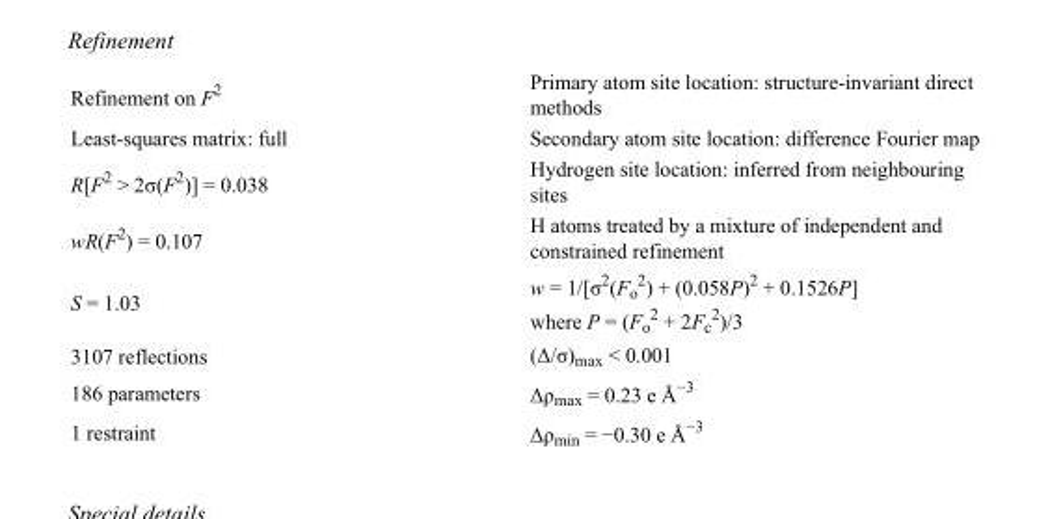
<table><tbody><tr><td>Refinement on F<sup>2</sup></td><td>Primary atom site location: structure-invariant direct methods</td></tr><tr><td>Least-squares matrix: full</td><td>Secondary atom site location: difference Fourier map</td></tr><tr><td>R[F<sup>2</sup> &gt; 2σ(F<sup>2</sup>)] = 0.038</td><td>Hydrogen site location: inferred from neighbouring sites</td></tr><tr><td>wR(F<sup>2</sup>) = 0.107</td><td>H atoms treated by a mixture of independent and constrained refinement</td></tr><tr><td>S = 1.03</td><td>w = 1/[σ<sup>2</sup>(F<sub>o</sub> <sup>2</sup>) + (0.058P)<sup>2</sup> + 0.1526P] where P = (F<sub>o</sub> <sup>2</sup> + 2F<sub>c</sub> <sup>2</sup>)/3</td></tr><tr><td>3107 reflections</td><td>(Δ/σ)<sub>max</sub> &lt; 0.001</td></tr><tr><td>186 parameters</td><td>Δρ<sub>max</sub> = 0.23 e Å<sup>−3</sup></td></tr><tr><td>1 restraint</td><td>Δρ<sub>min</sub> = −0.30 e Å<sup>−3</sup></td></tr></tbody></table>